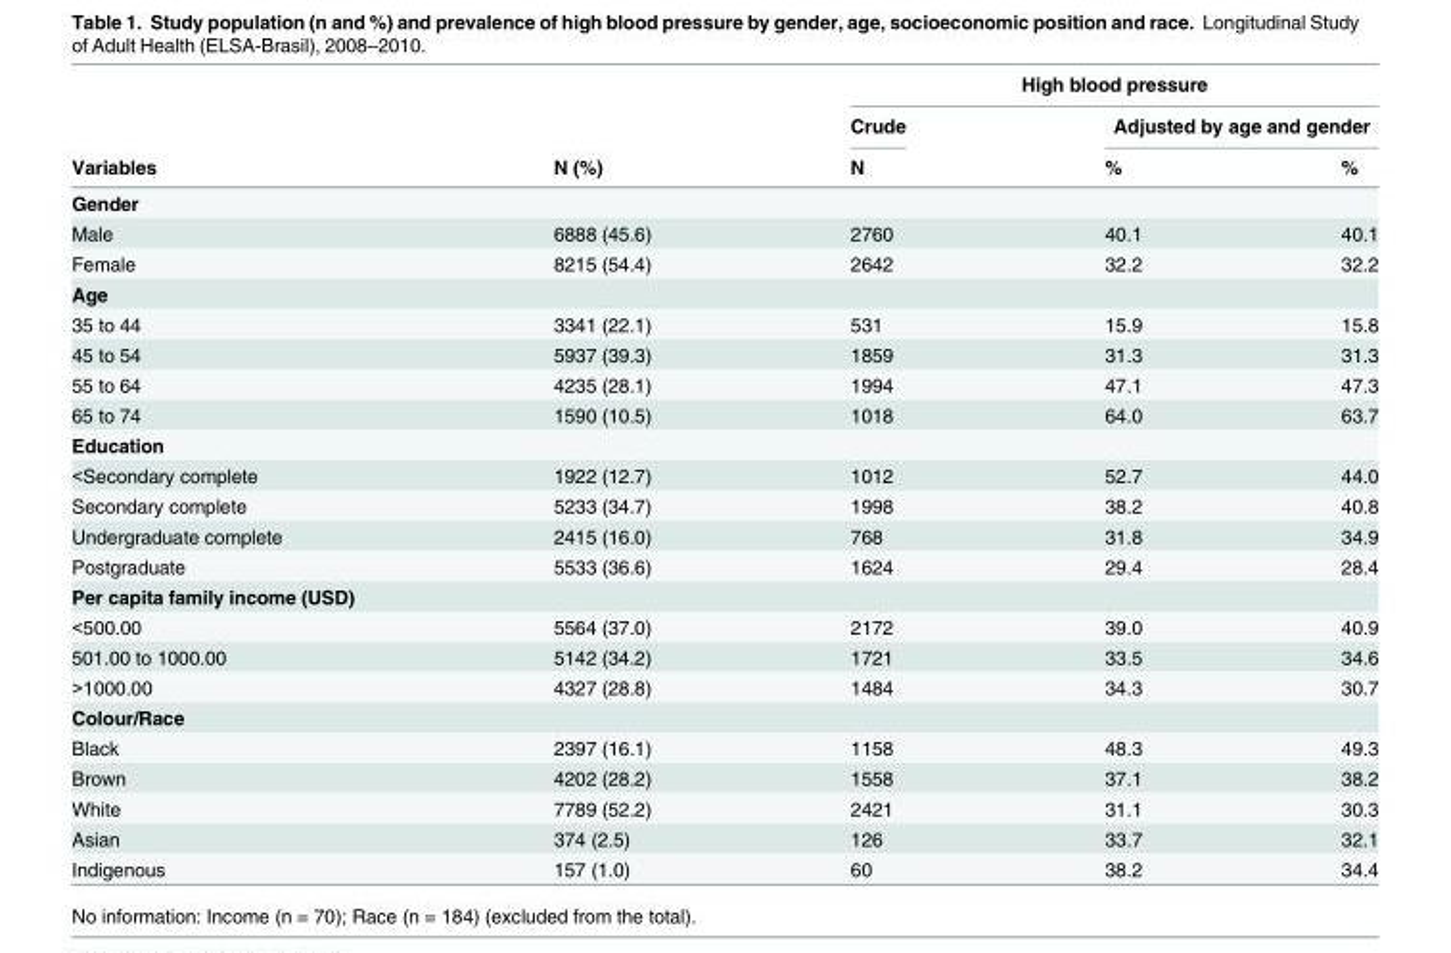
<table><thead><tr><td rowspan="3">Variables</td><td rowspan="3">N (%)</td><td colspan="3">High blood pressure</td></tr><tr><td rowspan="2">Crude N</td><td colspan="2">Adjusted by age and gender</td></tr><tr><td>%</td><td>%</td></tr></thead><tbody><tr><td colspan="5">Gender</td></tr><tr><td>Male</td><td>6888 (45.6)</td><td>2760</td><td>40.1</td><td>40.1</td></tr><tr><td>Female</td><td>8215 (54.4)</td><td>2642</td><td>32.2</td><td>32.2</td></tr><tr><td colspan="5">Age</td></tr><tr><td>35 to 44</td><td>3341 (22.1)</td><td>531</td><td>15.9</td><td>15.8</td></tr><tr><td>45 to 54</td><td>5937 (39.3)</td><td>1859</td><td>31.3</td><td>31.3</td></tr><tr><td>55 to 64</td><td>4235 (28.1)</td><td>1994</td><td>47.1</td><td>47.3</td></tr><tr><td>65 to 74</td><td>1590 (10.5)</td><td>1018</td><td>64.0</td><td>63.7</td></tr><tr><td colspan="5">Education</td></tr><tr><td>&lt;Secondary complete</td><td>1922 (12.7)</td><td>1012</td><td>52.7</td><td>44.0</td></tr><tr><td>Secondary complete</td><td>5233 (34.7)</td><td>1998</td><td>38.2</td><td>40.8</td></tr><tr><td>Undergraduate complete</td><td>2415 (16.0)</td><td>768</td><td>31.8</td><td>34.9</td></tr><tr><td>Postgraduate</td><td>5533 (36.6)</td><td>1624</td><td>29.4</td><td>28.4</td></tr><tr><td colspan="5">Per capita family income (USD)</td></tr><tr><td>&lt;500.00</td><td>5564 (37.0)</td><td>2172</td><td>39.0</td><td>40.9</td></tr><tr><td>501.00 to 1000.00</td><td>5142 (34.2)</td><td>1721</td><td>33.5</td><td>34.6</td></tr><tr><td>&gt;1000.00</td><td>4327 (28.8)</td><td>1484</td><td>34.3</td><td>30.7</td></tr><tr><td colspan="5">Colour/Race</td></tr><tr><td>Black</td><td>2397 (16.1)</td><td>1158</td><td>48.3</td><td>49.3</td></tr><tr><td>Brown</td><td>4202 (28.2)</td><td>1558</td><td>37.1</td><td>38.2</td></tr><tr><td>White</td><td>7789 (52.2)</td><td>2421</td><td>31.1</td><td>30.3</td></tr><tr><td>Asian</td><td>374 (2.5)</td><td>126</td><td>33.7</td><td>32.1</td></tr><tr><td>Indigenous</td><td>157 (1.0)</td><td>60</td><td>38.2</td><td>34.4</td></tr></tbody></table>